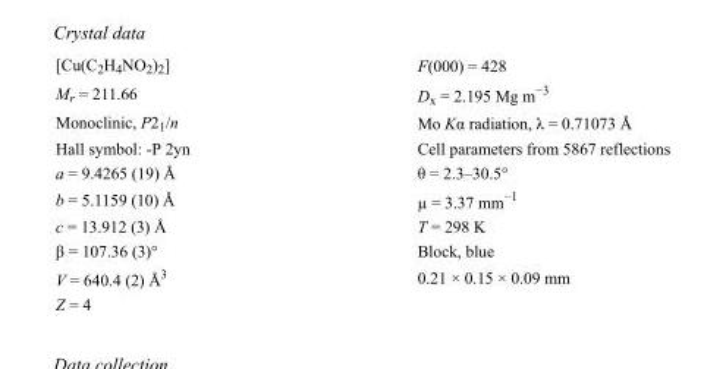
<table><tbody><tr><td>[Cu(C<sub>2</sub>H<sub>4</sub>NO<sub>2</sub>)<sub>2</sub>]</td><td>F(000) = 428</td></tr><tr><td>M<sub>r</sub> = 211.66</td><td>D<sub>x</sub> = 2.195 Mg m<sup>−3</sup></td></tr><tr><td>Monoclinic, P2<sub>1</sub>/n</td><td>Mo Kα radiation, λ = 0.71073 Å</td></tr><tr><td>Hall symbol: -P 2yn</td><td>Cell parameters from 5867 reflections</td></tr><tr><td>a = 9.4265 (19) Å</td><td>θ = 2.3–30.5°</td></tr><tr><td>b = 5.1159 (10) Å</td><td>µ = 3.37 mm<sup>−1</sup></td></tr><tr><td>c = 13.912 (3) Å</td><td>T = 298 K</td></tr><tr><td>β = 107.36 (3)°</td><td>Block, blue</td></tr><tr><td>V = 640.4 (2) Å<sup>3</sup></td><td>0.21 × 0.15 × 0.09 mm</td></tr><tr><td>Z = 4</td><td></td></tr></tbody></table>